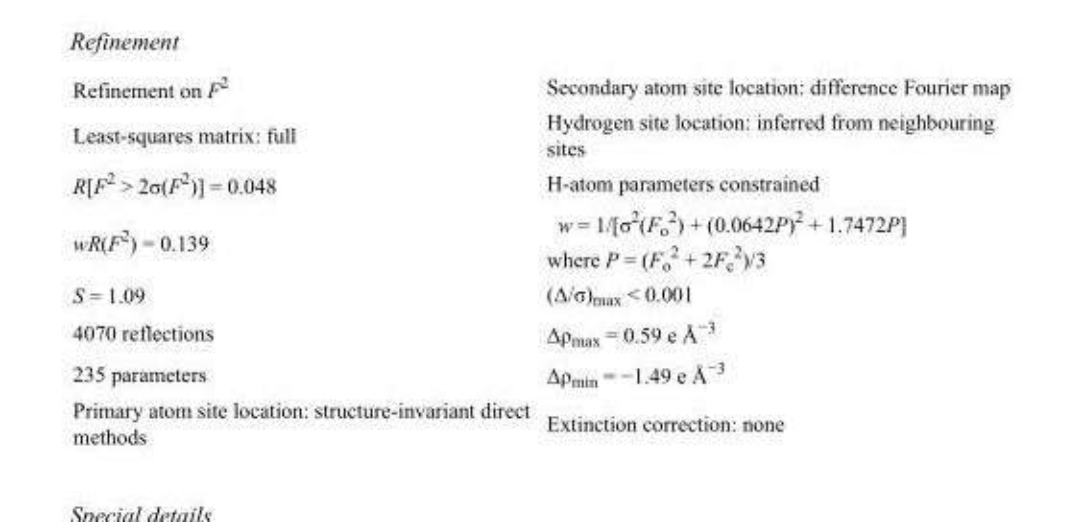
<table><tbody><tr><td>Refinement on F<sup>2</sup></td><td>Secondary atom site location: difference Fourier map</td></tr><tr><td>Least-squares matrix: full</td><td>Hydrogen site location: inferred from neighbouring sites</td></tr><tr><td>R[F<sup>2</sup> &gt; 2σ(F<sup>2</sup>)] = 0.048</td><td>H-atom parameters constrained</td></tr><tr><td>wR(F<sup>2</sup>) = 0.139</td><td>w = 1/[σ<sup>2</sup>(F<sub>o</sub> <sup>2</sup>) + (0.0642P)<sup>2</sup> + 1.7472P] where P = (F<sub>o</sub> <sup>2</sup> + 2F<sub>c</sub> <sup>2</sup>)/3</td></tr><tr><td>S = 1.09</td><td>(Δ/σ)<sub>max</sub> &lt; 0.001</td></tr><tr><td>4070 reflections</td><td>Δρ<sub>max</sub> = 0.59 e Å<sup>−3</sup></td></tr><tr><td>235 parameters</td><td>Δρ<sub>min</sub> = −1.49 e Å<sup>−3</sup></td></tr><tr><td>Primary atom site location: structure-invariant direct methods</td><td>Extinction correction: none</td></tr></tbody></table>